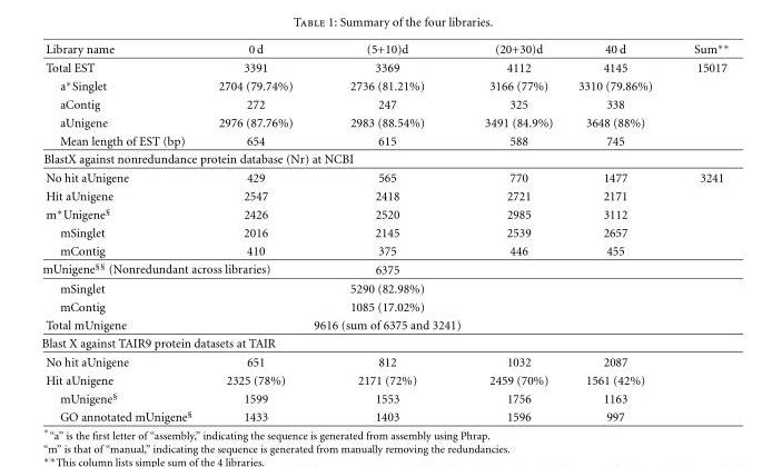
<table><thead><tr><td>Library name</td><td>0 d</td><td>(5+10)d</td><td>(20+30)d</td><td>40 d</td><td>Sum∗∗</td></tr></thead><tbody><tr><td>Total EST</td><td>3391</td><td>3369</td><td>4112</td><td>4145</td><td>15017</td></tr><tr><td>a∗Singlet</td><td>2704 (79.74%)</td><td>2736 (81.21%)</td><td>3166 (77%)</td><td>3310 (79.86%)</td><td></td></tr><tr><td>aContig</td><td>272</td><td>247</td><td>325</td><td>338</td><td></td></tr><tr><td>aUnigene</td><td>2976 (87.76%)</td><td>2983 (88.54%)</td><td>3491 (84.9%)</td><td>3648 (88%)</td><td></td></tr><tr><td>Mean length of EST (bp)</td><td>654</td><td>615</td><td>588</td><td>745</td><td></td></tr><tr><td colspan="6">BlastX against nonredundance protein database (Nr) at NCBI</td></tr><tr><td>No hit aUnigene</td><td>429</td><td>565</td><td>770</td><td>1477</td><td>3241</td></tr><tr><td>Hit aUnigene</td><td>2547</td><td>2418</td><td>2721</td><td>2171</td><td></td></tr><tr><td>m∗Unigene§</td><td>2426</td><td>2520</td><td>2985</td><td>3112</td><td></td></tr><tr><td>mSinglet</td><td>2016</td><td>2145</td><td>2539</td><td>2657</td><td></td></tr><tr><td>mContig</td><td>410</td><td>375</td><td>446</td><td>455</td><td></td></tr><tr><td colspan="2">mUnigene<sup>§§</sup> (Nonredundant across libraries)</td><td>6375</td><td></td><td></td><td></td></tr><tr><td>mSinglet</td><td></td><td>5290 (82.98%)</td><td></td><td></td><td></td></tr><tr><td>mContig</td><td></td><td>1085 (17.02%)</td><td></td><td></td><td></td></tr><tr><td>Total mUnigene</td><td></td><td>9616 (sum of 6375 and 3241)</td><td></td><td></td><td></td></tr><tr><td colspan="6">Blast X against TAIR9 protein datasets at TAIR</td></tr><tr><td>No hit aUnigene</td><td>651</td><td>812</td><td>1032</td><td>2087</td><td></td></tr><tr><td>Hit aUnigene</td><td>2325 (78%)</td><td>2171 (72%)</td><td>2459 (70%)</td><td>1561 (42%)</td><td></td></tr><tr><td>mUnigene§</td><td>1599</td><td>1553</td><td>1756</td><td>1163</td><td></td></tr><tr><td>GO annotated mUnigene<sup>§</sup></td><td>1433</td><td>1403</td><td>1596</td><td>997</td><td></td></tr></tbody></table>